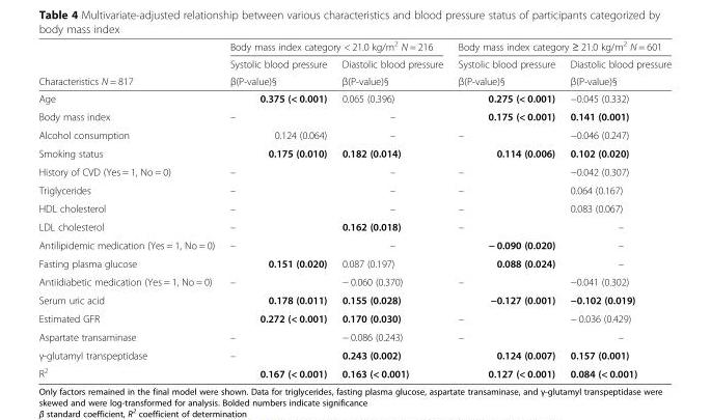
<table><thead><tr><td rowspan="3">Characteristics N = 817</td><td colspan="2">Body mass index category &lt; 21.0 kg/m<sup>2</sup> N = 216</td><td colspan="2">Body mass index category ≥ 21.0 kg/m<sup>2</sup> N = 601</td></tr><tr><td rowspan="2">Systolic blood pressure β(P-value)§</td><td rowspan="2">Diastolic blood pressure β(P-value)§</td><td rowspan="2">Systolic blood pressure β(P-value)§</td><td rowspan="2">Diastolic blood pressure β(P-value)§</td></tr><tr></tr></thead><tbody><tr><td>Age</td><td>0.375 (&lt; 0.001)</td><td>0.065 (0.396)</td><td>0.275 (&lt; 0.001)</td><td>−0.045 (0.332)</td></tr><tr><td>Body mass index</td><td>–</td><td>–</td><td>0.175 (&lt; 0.001)</td><td>0.141 (0.001)</td></tr><tr><td>Alcohol consumption</td><td>0.124 (0.064)</td><td>–</td><td>–</td><td>−0.046 (0.247)</td></tr><tr><td>Smoking status</td><td>0.175 (0.010)</td><td>0.182 (0.014)</td><td>0.114 (0.006)</td><td>0.102 (0.020)</td></tr><tr><td>History of CVD (Yes = 1, No = 0)</td><td>–</td><td>–</td><td>–</td><td>−0.042 (0.307)</td></tr><tr><td>Triglycerides</td><td>–</td><td>–</td><td>–</td><td>0.064 (0.167)</td></tr><tr><td>HDL cholesterol</td><td>–</td><td>–</td><td>–</td><td>0.083 (0.067)</td></tr><tr><td>LDL cholesterol</td><td>–</td><td>0.162 (0.018)</td><td>–</td><td>–</td></tr><tr><td>Antilipidemic medication (Yes = 1, No = 0)</td><td>–</td><td>–</td><td>− 0.090 (0.020)</td><td>–</td></tr><tr><td>Fasting plasma glucose</td><td>0.151 (0.020)</td><td>0.087 (0.197)</td><td>0.088 (0.024)</td><td>–</td></tr><tr><td>Antiidiabetic medication (Yes = 1, No = 0)</td><td>–</td><td>− 0.060 (0.370)</td><td>–</td><td>−0.041 (0.302)</td></tr><tr><td>Serum uric acid</td><td>0.178 (0.011)</td><td>0.155 (0.028)</td><td>−0.127 (0.001)</td><td>−0.102 (0.019)</td></tr><tr><td>Estimated GFR</td><td>0.272 (&lt; 0.001)</td><td>0.170 (0.030)</td><td>–</td><td>− 0.036 (0.429)</td></tr><tr><td>Aspartate transaminase</td><td>–</td><td>− 0.086 (0.243)</td><td>–</td><td>–</td></tr><tr><td>γ-glutamyl transpeptidase</td><td>–</td><td>0.243 (0.002)</td><td>0.124 (0.007)</td><td>0.157 (0.001)</td></tr><tr><td>R<sup>2</sup></td><td>0.167 (&lt; 0.001)</td><td>0.163 (&lt; 0.001)</td><td>0.127 (&lt; 0.001)</td><td>0.084 (&lt; 0.001)</td></tr></tbody></table>